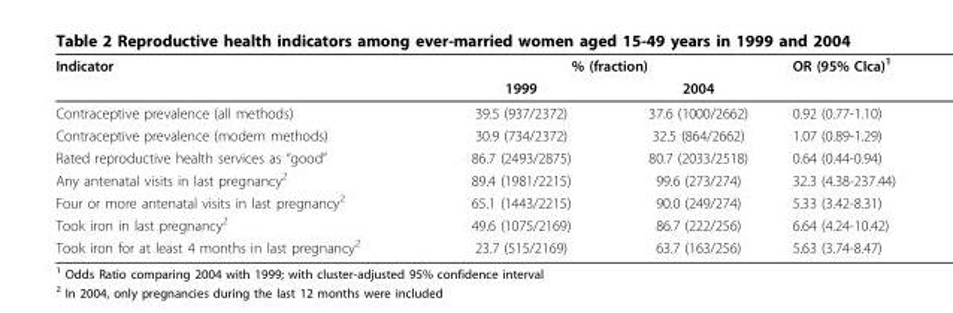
<table><thead><tr><td rowspan="2">Indicator</td><td colspan="2">% (fraction)</td><td rowspan="2">OR (95% CIca)<sup>1</sup></td></tr><tr><td>1999</td><td>2004</td></tr></thead><tbody><tr><td>Contraceptive prevalence (all methods)</td><td>39.5 (937/2372)</td><td>37.6 (1000/2662)</td><td>0.92 (0.77-1.10)</td></tr><tr><td>Contraceptive prevalence (modern methods)</td><td>30.9 (734/2372)</td><td>32.5 (864/2662)</td><td>1.07 (0.89-1.29)</td></tr><tr><td>Rated reproductive health services as “good”</td><td>86.7 (2493/2875)</td><td>80.7 (2033/2518)</td><td>0.64 (0.44-0.94)</td></tr><tr><td>Any antenatal visits in last pregnancy<sup>2</sup></td><td>89.4 (1981/2215)</td><td>99.6 (273/274)</td><td>32.3 (4.38-237.44)</td></tr><tr><td>Four or more antenatal visits in last pregnancy<sup>2</sup></td><td>65.1 (1443/2215)</td><td>90.0 (249/274)</td><td>5.33 (3.42-8.31)</td></tr><tr><td>Took iron in last pregnancy<sup>2</sup></td><td>49.6 (1075/2169)</td><td>86.7 (222/256)</td><td>6.64 (4.24-10.42)</td></tr><tr><td>Took iron for at least 4 months in last pregnancy<sup>2</sup></td><td>23.7 (515/2169)</td><td>63.7 (163/256)</td><td>5.63 (3.74-8.47)</td></tr></tbody></table>